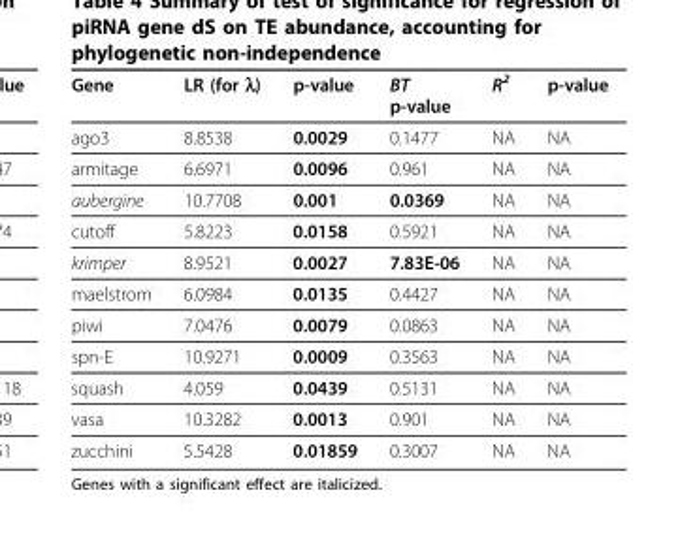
<table><thead><tr><td>Gene</td><td>LR (for λ)</td><td>p-value</td><td>BT p-value</td><td>R<sup>2</sup></td><td>p-value</td></tr></thead><tbody><tr><td>ago3</td><td>8.8538</td><td>0.0029</td><td>0.1477</td><td>NA</td><td>NA</td></tr><tr><td>armitage</td><td>6.6971</td><td>0.0096</td><td>0.961</td><td>NA</td><td>NA</td></tr><tr><td>aubergine</td><td>10.7708</td><td>0.001</td><td>0.0369</td><td>NA</td><td>NA</td></tr><tr><td>cutoff</td><td>5.8223</td><td>0.0158</td><td>0.5921</td><td>NA</td><td>NA</td></tr><tr><td>krimper</td><td>8.9521</td><td>0.0027</td><td>7.83E-06</td><td>NA</td><td>NA</td></tr><tr><td>maelstrom</td><td>6.0984</td><td>0.0135</td><td>0.4427</td><td>NA</td><td>NA</td></tr><tr><td>piwi</td><td>7.0476</td><td>0.0079</td><td>0.0863</td><td>NA</td><td>NA</td></tr><tr><td>spn-E</td><td>10.9271</td><td>0.0009</td><td>0.3563</td><td>NA</td><td>NA</td></tr><tr><td>squash</td><td>4.059</td><td>0.0439</td><td>0.5131</td><td>NA</td><td>NA</td></tr><tr><td>vasa</td><td>10.3282</td><td>0.0013</td><td>0.901</td><td>NA</td><td>NA</td></tr><tr><td>zucchini</td><td>5.5428</td><td>0.01859</td><td>0.3007</td><td>NA</td><td>NA</td></tr></tbody></table>